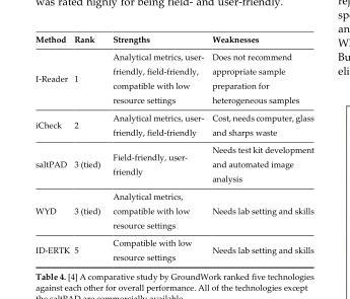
<table><thead><tr><td>Method Rank</td><td>Strengths</td><td>Weaknesses</td></tr></thead><tbody><tr><td>I-Reader 1</td><td>Analytical metrics, user- friendly, field-friendly, compatible with low resource settings</td><td>Does not recommend appropriate sample preparation for heterogeneous samples</td></tr><tr><td>iCheck 2</td><td>Analytical metrics, user- friendly, field-friendly</td><td>Cost, needs computer, glass and sharps waste</td></tr><tr><td>saltPAD 3 (tied)</td><td>Field-friendly, user- friendly</td><td>Needs test kit development and automated image analysis</td></tr><tr><td>WYD 3 (tied)</td><td>Analytical metrics, compatible with low resource settings</td><td>Needs lab setting and skills</td></tr><tr><td>ID-ERTK 5</td><td>Compatible with low resource settings</td><td>Needs lab setting and skills</td></tr></tbody></table>